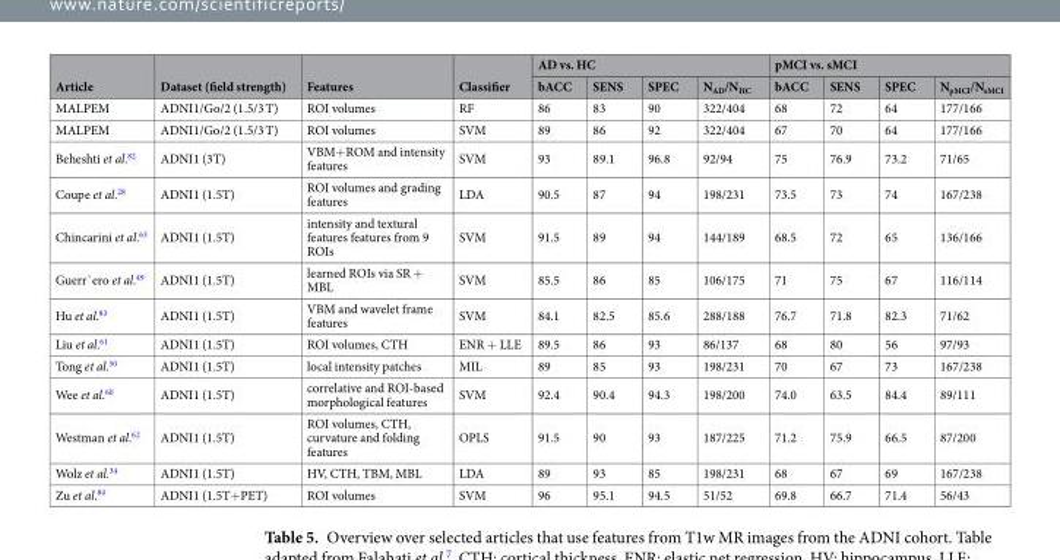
<table><thead><tr><td rowspan="2">Article</td><td rowspan="2">Dataset (field strength)</td><td rowspan="2">Features</td><td rowspan="2">Classifier</td><td colspan="4">AD vs. HC</td><td colspan="4">pMCI vs. sMCI</td></tr><tr><td>bACC</td><td>SENS</td><td>SPEC</td><td>N<sub>AD</sub>/N<sub>HC</sub></td><td>bACC</td><td>SENS</td><td>SPEC</td><td>N<sub>pMCI</sub>/N<sub>sMCI</sub></td></tr></thead><tbody><tr><td>MALPEM</td><td>ADNI1/Go/2 (1.5/3 T)</td><td>ROI volumes</td><td>RF</td><td>86</td><td>83</td><td>90</td><td>322/404</td><td>68</td><td>72</td><td>64</td><td>177/166</td></tr><tr><td>MALPEM</td><td>ADNI1/Go/2 (1.5/3 T)</td><td>ROI volumes</td><td>SVM</td><td>89</td><td>86</td><td>92</td><td>322/404</td><td>67</td><td>70</td><td>64</td><td>177/166</td></tr><tr><td>Beheshti et al.<sup>82</sup></td><td>ADNI1 (3T)</td><td>VBM+ROM and intensity features</td><td>SVM</td><td>93</td><td>89.1</td><td>96.8</td><td>92/94</td><td>75</td><td>76.9</td><td>73.2</td><td>71/65</td></tr><tr><td>Coupe et al.<sup>28</sup></td><td>ADNI1 (1.5T)</td><td>ROI volumes and grading features</td><td>LDA</td><td>90.5</td><td>87</td><td>94</td><td>198/231</td><td>73.5</td><td>73</td><td>74</td><td>167/238</td></tr><tr><td>Chincarini et al.<sup>63</sup></td><td>ADNI1 (1.5T)</td><td>intensity and textural features features from 9 ROIs</td><td>SVM</td><td>91.5</td><td>89</td><td>94</td><td>144/189</td><td>68.5</td><td>72</td><td>65</td><td>136/166</td></tr><tr><td>Guerr`ero et al.<sup>49</sup></td><td>ADNI1 (1.5T)</td><td>learned ROIs via SR + MBL</td><td>SVM</td><td>85.5</td><td>86</td><td>85</td><td>106/175</td><td>71</td><td>75</td><td>67</td><td>116/114</td></tr><tr><td>Hu et al.<sup>83</sup></td><td>ADNI1 (1.5T)</td><td>VBM and wavelet frame features</td><td>SVM</td><td>84.1</td><td>82.5</td><td>85.6</td><td>288/188</td><td>76.7</td><td>71.8</td><td>82.3</td><td>71/62</td></tr><tr><td>Liu et al.<sup>61</sup></td><td>ADNI1 (1.5T)</td><td>ROI volumes, CTH</td><td>ENR + LLE</td><td>89.5</td><td>86</td><td>93</td><td>86/137</td><td>68</td><td>80</td><td>56</td><td>97/93</td></tr><tr><td>Tong et al.<sup>50</sup></td><td>ADNI1 (1.5T)</td><td>local intensity patches</td><td>MIL</td><td>89</td><td>85</td><td>93</td><td>198/231</td><td>70</td><td>67</td><td>73</td><td>167/238</td></tr><tr><td>Wee et al.<sup>60</sup></td><td>ADNI1 (1.5T)</td><td>correlative and ROI-based morphological features</td><td>SVM</td><td>92.4</td><td>90.4</td><td>94.3</td><td>198/200</td><td>74.0</td><td>63.5</td><td>84.4</td><td>89/111</td></tr><tr><td>Westman et al.<sup>62</sup></td><td>ADNI1 (1.5T)</td><td>ROI volumes, CTH, curvature and folding features</td><td>OPLS</td><td>91.5</td><td>90</td><td>93</td><td>187/225</td><td>71.2</td><td>75.9</td><td>66.5</td><td>87/200</td></tr><tr><td>Wolz et al.<sup>34</sup></td><td>ADNI1 (1.5T)</td><td>HV, CTH, TBM, MBL</td><td>LDA</td><td>89</td><td>93</td><td>85</td><td>198/231</td><td>68</td><td>67</td><td>69</td><td>167/238</td></tr><tr><td>Zu et al.<sup>84</sup></td><td>ADNI1 (1.5T+PET)</td><td>ROI volumes</td><td>SVM</td><td>96</td><td>95.1</td><td>94.5</td><td>51/52</td><td>69.8</td><td>66.7</td><td>71.4</td><td>56/43</td></tr></tbody></table>